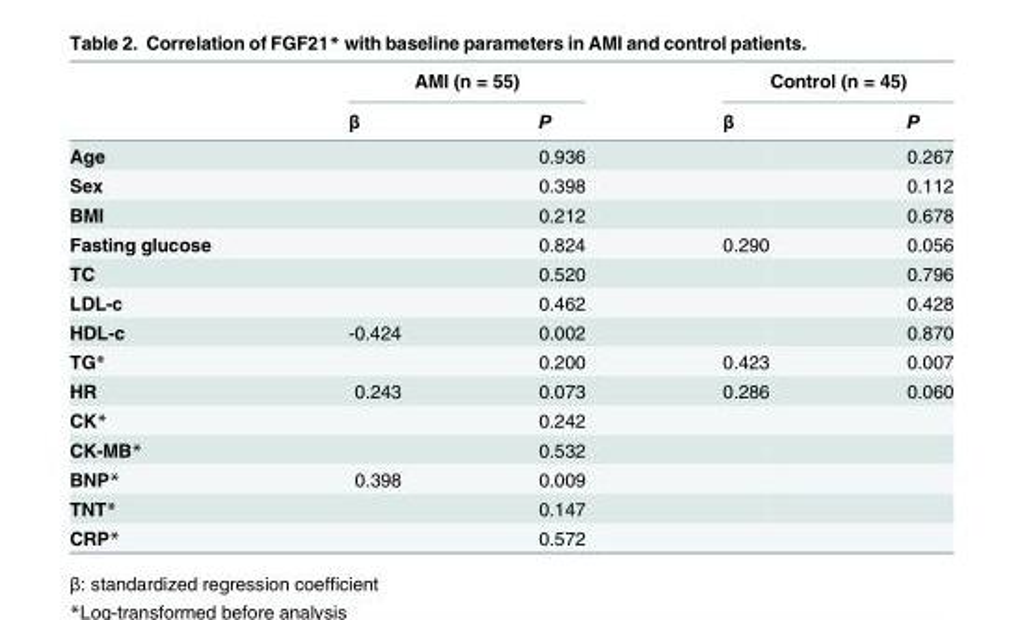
<table><thead><tr><td rowspan="2"></td><td colspan="2">AMI (n = 55)</td><td colspan="2">Control (n = 45)</td></tr><tr><td>β</td><td>P</td><td>β</td><td>P</td></tr></thead><tbody><tr><td>Age</td><td></td><td>0.936</td><td></td><td>0.267</td></tr><tr><td>Sex</td><td></td><td>0.398</td><td></td><td>0.112</td></tr><tr><td>BMI</td><td></td><td>0.212</td><td></td><td>0.678</td></tr><tr><td>Fasting glucose</td><td></td><td>0.824</td><td>0.290</td><td>0.056</td></tr><tr><td>TC</td><td></td><td>0.520</td><td></td><td>0.796</td></tr><tr><td>LDL-c</td><td></td><td>0.462</td><td></td><td>0.428</td></tr><tr><td>HDL-c</td><td>-0.424</td><td>0.002</td><td></td><td>0.870</td></tr><tr><td>TG*</td><td></td><td>0.200</td><td>0.423</td><td>0.007</td></tr><tr><td>HR</td><td>0.243</td><td>0.073</td><td>0.286</td><td>0.060</td></tr><tr><td>CK*</td><td></td><td>0.242</td><td></td><td></td></tr><tr><td>CK-MB*</td><td></td><td>0.532</td><td></td><td></td></tr><tr><td>BNP*</td><td>0.398</td><td>0.009</td><td></td><td></td></tr><tr><td>TNT*</td><td></td><td>0.147</td><td></td><td></td></tr><tr><td>CRP*</td><td></td><td>0.572</td><td></td><td></td></tr></tbody></table>